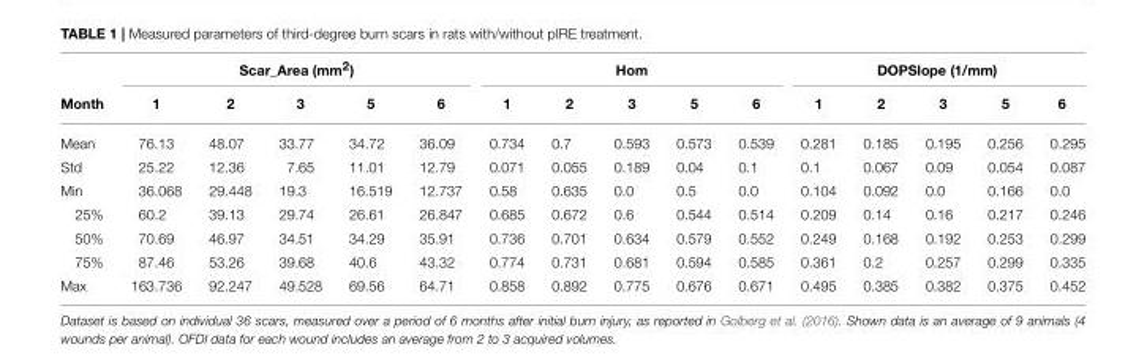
<table><thead><tr><td rowspan="2">Month</td><td colspan="5">Scar_Area (mm<sup>2</sup>)</td><td colspan="5">Hom</td><td colspan="5">DOPSlope (1/mm)</td></tr><tr><td>1</td><td>2</td><td>3</td><td>5</td><td>6</td><td>1</td><td>2</td><td>3</td><td>5</td><td>6</td><td>1</td><td>2</td><td>3</td><td>5</td><td>6</td></tr></thead><tbody><tr><td>Mean</td><td>76.13</td><td>48.07</td><td>33.77</td><td>34.72</td><td>36.09</td><td>0.734</td><td>0.7</td><td>0.593</td><td>0.573</td><td>0.539</td><td>0.281</td><td>0.185</td><td>0.195</td><td>0.256</td><td>0.295</td></tr><tr><td>Std</td><td>25.22</td><td>12.36</td><td>7.65</td><td>11.01</td><td>12.79</td><td>0.071</td><td>0.055</td><td>0.189</td><td>0.04</td><td>0.1</td><td>0.1</td><td>0.067</td><td>0.09</td><td>0.054</td><td>0.087</td></tr><tr><td>Min</td><td>36.068</td><td>29.448</td><td>19.3</td><td>16.519</td><td>12.737</td><td>0.58</td><td>0.635</td><td>0.0</td><td>0.5</td><td>0.0</td><td>0.104</td><td>0.092</td><td>0.0</td><td>0.166</td><td>0.0</td></tr><tr><td>25%</td><td>60.2</td><td>39.13</td><td>29.74</td><td>26.61</td><td>26.847</td><td>0.685</td><td>0.672</td><td>0.6</td><td>0.544</td><td>0.514</td><td>0.209</td><td>0.14</td><td>0.16</td><td>0.217</td><td>0.246</td></tr><tr><td>50%</td><td>70.69</td><td>46.97</td><td>34.51</td><td>34.29</td><td>35.91</td><td>0.736</td><td>0.701</td><td>0.634</td><td>0.579</td><td>0.552</td><td>0.249</td><td>0.168</td><td>0.192</td><td>0.253</td><td>0.299</td></tr><tr><td>75%</td><td>87.46</td><td>53.26</td><td>39.68</td><td>40.6</td><td>43.32</td><td>0.774</td><td>0.731</td><td>0.681</td><td>0.594</td><td>0.585</td><td>0.361</td><td>0.2</td><td>0.257</td><td>0.299</td><td>0.335</td></tr><tr><td>Max</td><td>163.736</td><td>92.247</td><td>49.528</td><td>69.56</td><td>64.71</td><td>0.858</td><td>0.892</td><td>0.775</td><td>0.676</td><td>0.671</td><td>0.495</td><td>0.385</td><td>0.382</td><td>0.375</td><td>0.452</td></tr></tbody></table>